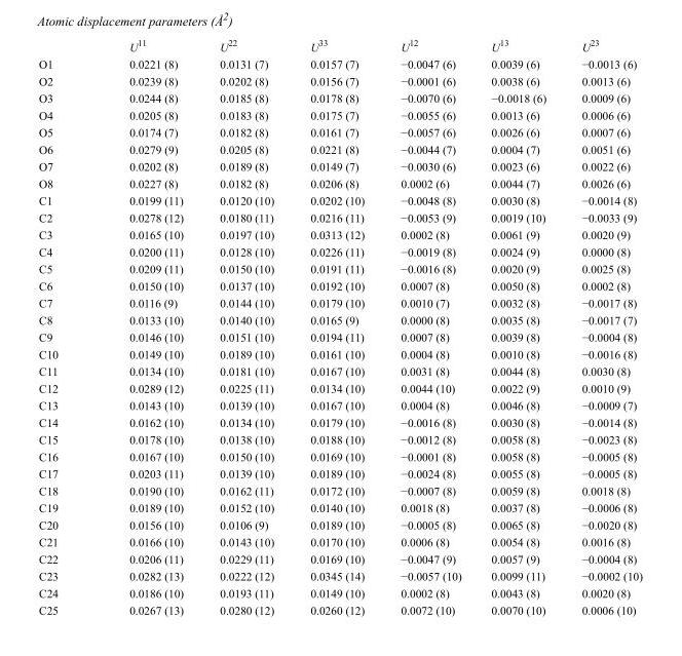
<table><thead><tr><td></td><td>U<sup>11</sup></td><td>U<sup>22</sup></td><td>U<sup>33</sup></td><td>U<sup>12</sup></td><td>U<sup>13</sup></td><td>U<sup>23</sup></td></tr></thead><tbody><tr><td>O1</td><td>0.0221 (8)</td><td>0.0131 (7)</td><td>0.0157 (7)</td><td>−0.0047 (6)</td><td>0.0039 (6)</td><td>−0.0013 (6)</td></tr><tr><td>O2</td><td>0.0239 (8)</td><td>0.0202 (8)</td><td>0.0156 (7)</td><td>−0.0001 (6)</td><td>0.0038 (6)</td><td>0.0013 (6)</td></tr><tr><td>O3</td><td>0.0244 (8)</td><td>0.0185 (8)</td><td>0.0178 (8)</td><td>−0.0070 (6)</td><td>−0.0018 (6)</td><td>0.0009 (6)</td></tr><tr><td>O4</td><td>0.0205 (8)</td><td>0.0183 (8)</td><td>0.0175 (7)</td><td>−0.0055 (6)</td><td>0.0013 (6)</td><td>0.0006 (6)</td></tr><tr><td>O5</td><td>0.0174 (7)</td><td>0.0182 (8)</td><td>0.0161 (7)</td><td>−0.0057 (6)</td><td>0.0026 (6)</td><td>0.0007 (6)</td></tr><tr><td>O6</td><td>0.0279 (9)</td><td>0.0205 (8)</td><td>0.0221 (8)</td><td>−0.0044 (7)</td><td>0.0004 (7)</td><td>0.0051 (6)</td></tr><tr><td>O7</td><td>0.0202 (8)</td><td>0.0189 (8)</td><td>0.0149 (7)</td><td>−0.0030 (6)</td><td>0.0023 (6)</td><td>0.0022 (6)</td></tr><tr><td>O8</td><td>0.0227 (8)</td><td>0.0182 (8)</td><td>0.0206 (8)</td><td>0.0002 (6)</td><td>0.0044 (7)</td><td>0.0026 (6)</td></tr><tr><td>C1</td><td>0.0199 (11)</td><td>0.0120 (10)</td><td>0.0202 (10)</td><td>−0.0048 (8)</td><td>0.0030 (8)</td><td>−0.0014 (8)</td></tr><tr><td>C2</td><td>0.0278 (12)</td><td>0.0180 (11)</td><td>0.0216 (11)</td><td>−0.0053 (9)</td><td>0.0019 (10)</td><td>−0.0033 (9)</td></tr><tr><td>C3</td><td>0.0165 (10)</td><td>0.0197 (10)</td><td>0.0313 (12)</td><td>0.0002 (8)</td><td>0.0061 (9)</td><td>0.0020 (9)</td></tr><tr><td>C4</td><td>0.0200 (11)</td><td>0.0128 (10)</td><td>0.0226 (11)</td><td>−0.0019 (8)</td><td>0.0024 (9)</td><td>0.0000 (8)</td></tr><tr><td>C5</td><td>0.0209 (11)</td><td>0.0150 (10)</td><td>0.0191 (11)</td><td>−0.0016 (8)</td><td>0.0020 (9)</td><td>0.0025 (8)</td></tr><tr><td>C6</td><td>0.0150 (10)</td><td>0.0137 (10)</td><td>0.0192 (10)</td><td>0.0007 (8)</td><td>0.0050 (8)</td><td>0.0002 (8)</td></tr><tr><td>C7</td><td>0.0116 (9)</td><td>0.0144 (10)</td><td>0.0179 (10)</td><td>0.0010 (7)</td><td>0.0032 (8)</td><td>−0.0017 (8)</td></tr><tr><td>C8</td><td>0.0133 (10)</td><td>0.0140 (10)</td><td>0.0165 (9)</td><td>0.0000 (8)</td><td>0.0035 (8)</td><td>−0.0017 (7)</td></tr><tr><td>C9</td><td>0.0146 (10)</td><td>0.0151 (10)</td><td>0.0194 (11)</td><td>0.0007 (8)</td><td>0.0039 (8)</td><td>−0.0004 (8)</td></tr><tr><td>C10</td><td>0.0149 (10)</td><td>0.0189 (10)</td><td>0.0161 (10)</td><td>0.0004 (8)</td><td>0.0010 (8)</td><td>−0.0016 (8)</td></tr><tr><td>C11</td><td>0.0134 (10)</td><td>0.0181 (10)</td><td>0.0167 (10)</td><td>0.0031 (8)</td><td>0.0044 (8)</td><td>0.0030 (8)</td></tr><tr><td>C12</td><td>0.0289 (12)</td><td>0.0225 (11)</td><td>0.0134 (10)</td><td>0.0044 (10)</td><td>0.0022 (9)</td><td>0.0010 (9)</td></tr><tr><td>C13</td><td>0.0143 (10)</td><td>0.0139 (10)</td><td>0.0167 (10)</td><td>0.0004 (8)</td><td>0.0046 (8)</td><td>−0.0009 (7)</td></tr><tr><td>C14</td><td>0.0162 (10)</td><td>0.0134 (10)</td><td>0.0179 (10)</td><td>−0.0016 (8)</td><td>0.0030 (8)</td><td>−0.0014 (8)</td></tr><tr><td>C15</td><td>0.0178 (10)</td><td>0.0138 (10)</td><td>0.0188 (10)</td><td>−0.0012 (8)</td><td>0.0058 (8)</td><td>−0.0023 (8)</td></tr><tr><td>C16</td><td>0.0167 (10)</td><td>0.0150 (10)</td><td>0.0169 (10)</td><td>−0.0001 (8)</td><td>0.0058 (8)</td><td>−0.0005 (8)</td></tr><tr><td>C17</td><td>0.0203 (11)</td><td>0.0139 (10)</td><td>0.0189 (10)</td><td>−0.0024 (8)</td><td>0.0055 (8)</td><td>−0.0005 (8)</td></tr><tr><td>C18</td><td>0.0190 (10)</td><td>0.0162 (11)</td><td>0.0172 (10)</td><td>−0.0007 (8)</td><td>0.0059 (8)</td><td>0.0018 (8)</td></tr><tr><td>C19</td><td>0.0189 (10)</td><td>0.0152 (10)</td><td>0.0140 (10)</td><td>0.0018 (8)</td><td>0.0037 (8)</td><td>−0.0006 (8)</td></tr><tr><td>C20</td><td>0.0156 (10)</td><td>0.0106 (9)</td><td>0.0189 (10)</td><td>−0.0005 (8)</td><td>0.0065 (8)</td><td>−0.0020 (8)</td></tr><tr><td>C21</td><td>0.0166 (10)</td><td>0.0143 (10)</td><td>0.0170 (10)</td><td>0.0006 (8)</td><td>0.0054 (8)</td><td>0.0016 (8)</td></tr><tr><td>C22</td><td>0.0206 (11)</td><td>0.0229 (11)</td><td>0.0169 (10)</td><td>−0.0047 (9)</td><td>0.0057 (9)</td><td>−0.0004 (8)</td></tr><tr><td>C23</td><td>0.0282 (13)</td><td>0.0222 (12)</td><td>0.0345 (14)</td><td>−0.0057 (10)</td><td>0.0099 (11)</td><td>−0.0002 (10)</td></tr><tr><td>C24</td><td>0.0186 (10)</td><td>0.0193 (11)</td><td>0.0149 (10)</td><td>0.0002 (8)</td><td>0.0043 (8)</td><td>0.0020 (8)</td></tr><tr><td>C25</td><td>0.0267 (13)</td><td>0.0280 (12)</td><td>0.0260 (12)</td><td>0.0072 (10)</td><td>0.0070 (10)</td><td>0.0006 (10)</td></tr></tbody></table>